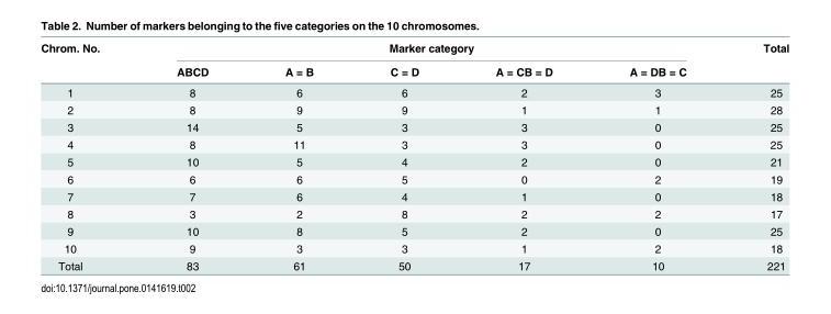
<table><thead><tr><td rowspan="2">Chrom. No.</td><td colspan="5">Marker category</td><td rowspan="2">Total</td></tr><tr><td>ABCD</td><td>A = B</td><td>C = D</td><td>A = CB = D</td><td>A = DB = C</td></tr></thead><tbody><tr><td>1</td><td>8</td><td>6</td><td>6</td><td>2</td><td>3</td><td>25</td></tr><tr><td>2</td><td>8</td><td>9</td><td>9</td><td>1</td><td>1</td><td>28</td></tr><tr><td>3</td><td>14</td><td>5</td><td>3</td><td>3</td><td>0</td><td>25</td></tr><tr><td>4</td><td>8</td><td>11</td><td>3</td><td>3</td><td>0</td><td>25</td></tr><tr><td>5</td><td>10</td><td>5</td><td>4</td><td>2</td><td>0</td><td>21</td></tr><tr><td>6</td><td>6</td><td>6</td><td>5</td><td>0</td><td>2</td><td>19</td></tr><tr><td>7</td><td>7</td><td>6</td><td>4</td><td>1</td><td>0</td><td>18</td></tr><tr><td>8</td><td>3</td><td>2</td><td>8</td><td>2</td><td>2</td><td>17</td></tr><tr><td>9</td><td>10</td><td>8</td><td>5</td><td>2</td><td>0</td><td>25</td></tr><tr><td>10</td><td>9</td><td>3</td><td>3</td><td>1</td><td>2</td><td>18</td></tr><tr><td>Total</td><td>83</td><td>61</td><td>50</td><td>17</td><td>10</td><td>221</td></tr></tbody></table>